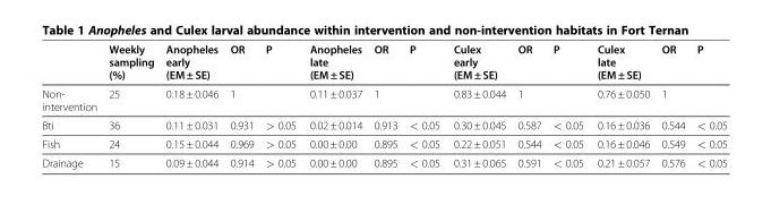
<table><thead><tr><td></td><td>Weekly sampling (%)</td><td>Anopheles early (EM ± SE)</td><td>OR</td><td>P</td><td>Anopheles late (EM ± SE)</td><td>OR</td><td>P</td><td>Culex early (EM ± SE)</td><td>OR</td><td>P</td><td>Culex late (EM ± SE)</td><td>OR</td><td>P</td></tr></thead><tbody><tr><td>Non- intervention</td><td>25</td><td>0.18 ± 0.046</td><td>1</td><td></td><td>0.11 ± 0.037</td><td>1</td><td></td><td>0.83 ± 0.044</td><td>1</td><td></td><td>0.76 ± 0.050</td><td>1</td><td></td></tr><tr><td>Bti</td><td>36</td><td>0.11 ± 0.031</td><td>0.931</td><td>&gt; 0.05</td><td>0.02 ± 0.014</td><td>0.913</td><td>&lt; 0.05</td><td>0.30 ± 0.045</td><td>0.587</td><td>&lt; 0.05</td><td>0.16 ± 0.036</td><td>0.544</td><td>&lt; 0.05</td></tr><tr><td>Fish</td><td>24</td><td>0.15 ± 0.044</td><td>0.969</td><td>&gt; 0.05</td><td>0.00 ± 0.00</td><td>0.895</td><td>&lt; 0.05</td><td>0.22 ± 0.051</td><td>0.544</td><td>&lt; 0.05</td><td>0.16 ± 0.046</td><td>0.549</td><td>&lt; 0.05</td></tr><tr><td>Drainage</td><td>15</td><td>0.09 ± 0.044</td><td>0.914</td><td>&gt; 0.05</td><td>0.00 ± 0.00</td><td>0.895</td><td>&lt; 0.05</td><td>0.31 ± 0.065</td><td>0.591</td><td>&lt; 0.05</td><td>0.21 ± 0.057</td><td>0.576</td><td>&lt; 0.05</td></tr></tbody></table>